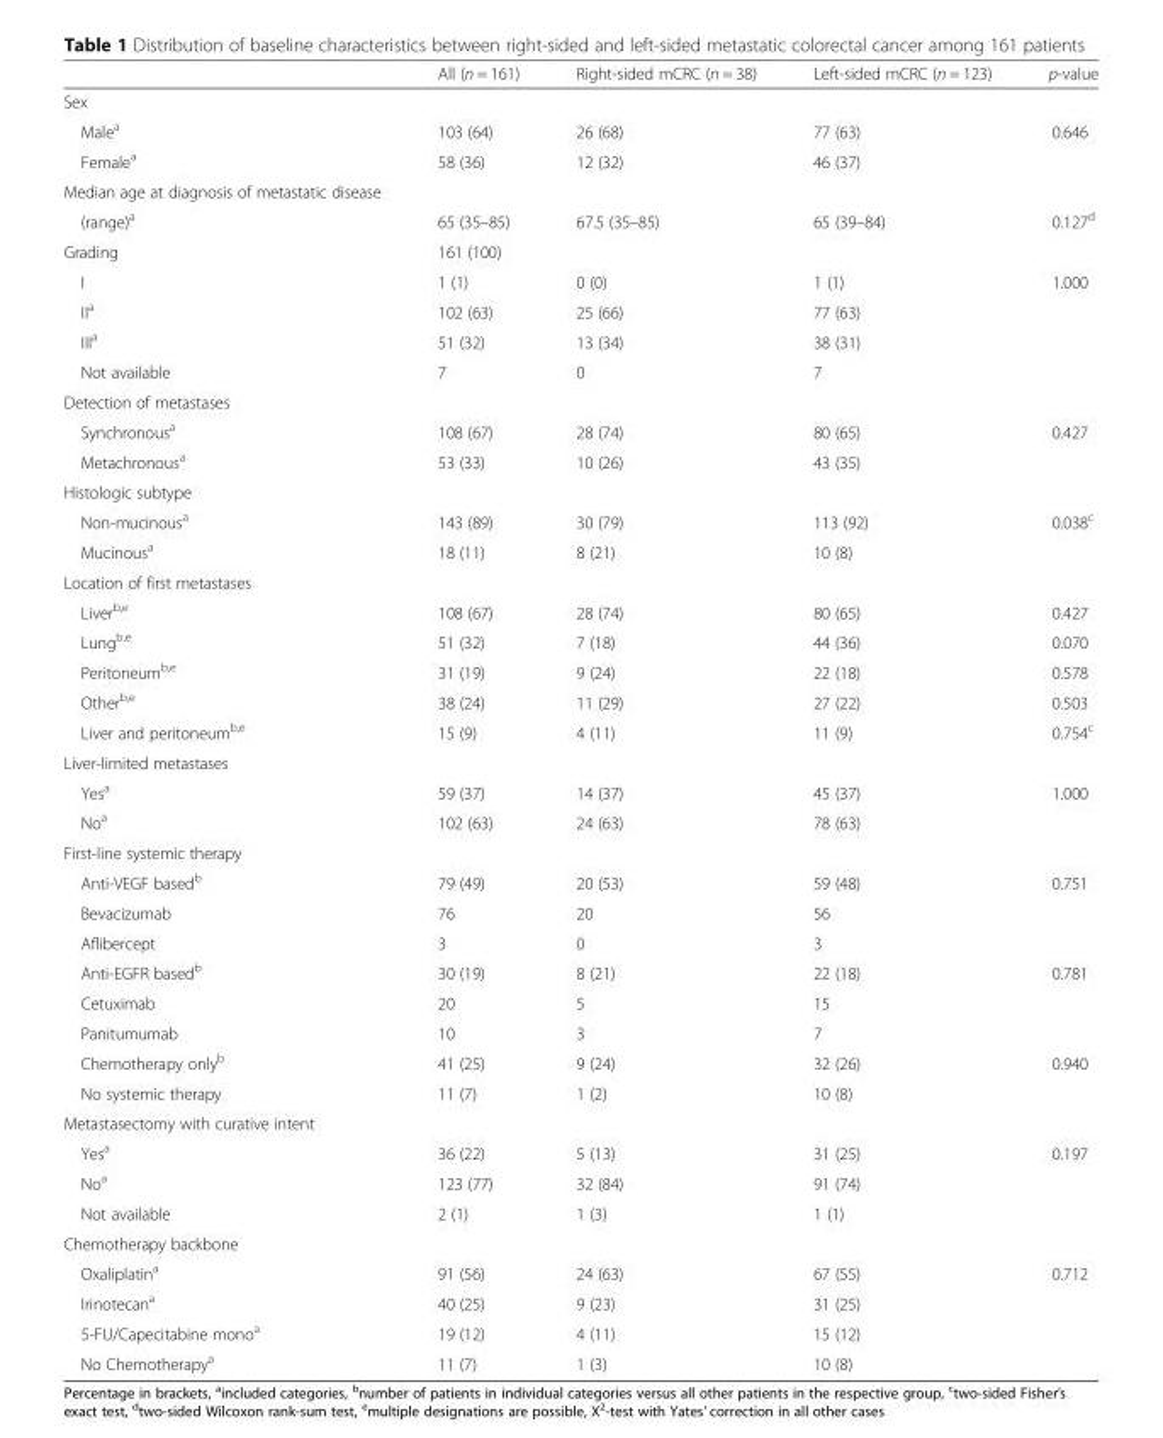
<table><thead><tr><td></td><td>All (n = 161)</td><td>Right-sided mCRC (n = 38)</td><td>Left-sided mCRC (n = 123)</td><td>p-value</td></tr></thead><tbody><tr><td colspan="5">Sex</td></tr><tr><td>Male<sup>a</sup></td><td>103 (64)</td><td>26 (68)</td><td>77 (63)</td><td rowspan="2">0.646</td></tr><tr><td>Female<sup>a</sup></td><td>58 (36)</td><td>12 (32)</td><td>46 (37)</td></tr><tr><td colspan="5">Median age at diagnosis of metastatic disease</td></tr><tr><td>(range)<sup>a</sup></td><td>65 (35–85)</td><td>67.5 (35–85)</td><td>65 (39–84)</td><td>0.127<sup>d</sup></td></tr><tr><td>Grading</td><td>161 (100)</td><td colspan="3"></td></tr><tr><td>I</td><td>1 (1)</td><td>0 (0)</td><td>1 (1)</td><td rowspan="4">1.000</td></tr><tr><td>II<sup>a</sup></td><td>102 (63)</td><td>25 (66)</td><td>77 (63)</td></tr><tr><td>III<sup>a</sup></td><td>51 (32)</td><td>13 (34)</td><td>38 (31)</td></tr><tr><td>Not available</td><td>7</td><td>0</td><td>7</td></tr><tr><td colspan="5">Detection of metastases</td></tr><tr><td>Synchronous<sup>a</sup></td><td>108 (67)</td><td>28 (74)</td><td>80 (65)</td><td rowspan="2">0.427</td></tr><tr><td>Metachronous<sup>a</sup></td><td>53 (33)</td><td>10 (26)</td><td>43 (35)</td></tr><tr><td colspan="5">Histologic subtype</td></tr><tr><td>Non-mucinous<sup>a</sup></td><td>143 (89)</td><td>30 (79)</td><td>113 (92)</td><td rowspan="2">0.038<sup>c</sup></td></tr><tr><td>Mucinous<sup>a</sup></td><td>18 (11)</td><td>8 (21)</td><td>10 (8)</td></tr><tr><td colspan="5">Location of first metastases</td></tr><tr><td>Liver<sup>b,e</sup></td><td>108 (67)</td><td>28 (74)</td><td>80 (65)</td><td>0.427</td></tr><tr><td>Lung<sup>b,e</sup></td><td>51 (32)</td><td>7 (18)</td><td>44 (36)</td><td>0.070</td></tr><tr><td>Peritoneum<sup>b,e</sup></td><td>31 (19)</td><td>9 (24)</td><td>22 (18)</td><td>0.578</td></tr><tr><td>Other<sup>b,e</sup></td><td>38 (24)</td><td>11 (29)</td><td>27 (22)</td><td>0.503</td></tr><tr><td>Liver and peritoneum<sup>b,e</sup></td><td>15 (9)</td><td>4 (11)</td><td>11 (9)</td><td>0.754<sup>c</sup></td></tr><tr><td colspan="5">Liver-limited metastases</td></tr><tr><td>Yes<sup>a</sup></td><td>59 (37)</td><td>14 (37)</td><td>45 (37)</td><td>1.000</td></tr><tr><td>No<sup>a</sup></td><td>102 (63)</td><td>24 (63)</td><td>78 (63)</td><td></td></tr><tr><td colspan="5">First-line systemic therapy</td></tr><tr><td>Anti-VEGF based<sup>b</sup></td><td>79 (49)</td><td>20 (53)</td><td>59 (48)</td><td>0.751</td></tr><tr><td>Bevacizumab</td><td>76</td><td>20</td><td>56</td><td></td></tr><tr><td>Aflibercept</td><td>3</td><td>0</td><td>3</td><td></td></tr><tr><td>Anti-EGFR based<sup>b</sup></td><td>30 (19)</td><td>8 (21)</td><td>22 (18)</td><td>0.781</td></tr><tr><td>Cetuximab</td><td>20</td><td>5</td><td>15</td><td></td></tr><tr><td>Panitumumab</td><td>10</td><td>3</td><td>7</td><td></td></tr><tr><td>Chemotherapy only<sup>b</sup></td><td>41 (25)</td><td>9 (24)</td><td>32 (26)</td><td>0.940</td></tr><tr><td>No systemic therapy</td><td>11 (7)</td><td>1 (2)</td><td>10 (8)</td><td></td></tr><tr><td colspan="5">Metastasectomy with curative intent</td></tr><tr><td>Yes<sup>a</sup></td><td>36 (22)</td><td>5 (13)</td><td>31 (25)</td><td rowspan="3">0.197</td></tr><tr><td>No<sup>a</sup></td><td>123 (77)</td><td>32 (84)</td><td>91 (74)</td></tr><tr><td>Not available</td><td>2 (1)</td><td>1 (3)</td><td>1 (1)</td></tr><tr><td colspan="5">Chemotherapy backbone</td></tr><tr><td>Oxaliplatin<sup>a</sup></td><td>91 (56)</td><td>24 (63)</td><td>67 (55)</td><td rowspan="4">0.712</td></tr><tr><td>Irinotecan<sup>a</sup></td><td>40 (25)</td><td>9 (23)</td><td>31 (25)</td></tr><tr><td>5-FU/Capecitabine mono<sup>a</sup></td><td>19 (12)</td><td>4 (11)</td><td>15 (12)</td></tr><tr><td>No Chemotherapy<sup>a</sup></td><td>11 (7)</td><td>1 (3)</td><td>10 (8)</td></tr></tbody></table>